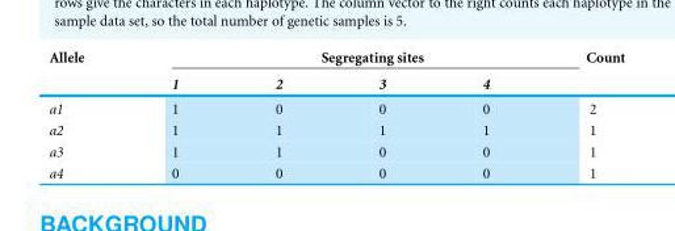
<table><thead><tr><td rowspan="2">Allele</td><td colspan="4">Segregating sites</td><td rowspan="2">Count</td></tr><tr><td>1</td><td>2</td><td>3</td><td>4</td></tr></thead><tbody><tr><td>a1</td><td>1</td><td>0</td><td>0</td><td>0</td><td>2</td></tr><tr><td>a2</td><td>1</td><td>1</td><td>1</td><td>1</td><td>1</td></tr><tr><td>a3</td><td>1</td><td>1</td><td>0</td><td>0</td><td>1</td></tr><tr><td>a4</td><td>0</td><td>0</td><td>0</td><td>0</td><td>1</td></tr></tbody></table>